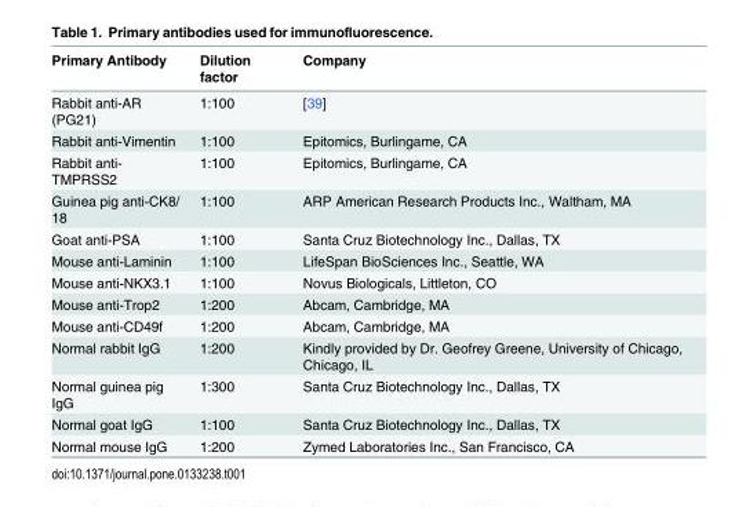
<table><thead><tr><td>Primary Antibody</td><td>Dilution factor</td><td>Company</td></tr></thead><tbody><tr><td>Rabbit anti-AR (PG21)</td><td>1:100</td><td>[39]</td></tr><tr><td>Rabbit anti-Vimentin</td><td>1:100</td><td>Epitomics, Burlingame, CA</td></tr><tr><td>Rabbit anti- TMPRSS2</td><td>1:100</td><td>Epitomics, Burlingame, CA</td></tr><tr><td>Guinea pig anti-CK8/ 18</td><td>1:100</td><td>ARP American Research Products Inc., Waltham, MA</td></tr><tr><td>Goat anti-PSA</td><td>1:100</td><td>Santa Cruz Biotechnology Inc., Dallas, TX</td></tr><tr><td>Mouse anti-Laminin</td><td>1:100</td><td>LifeSpan BioSciences Inc., Seattle, WA</td></tr><tr><td>Mouse anti-NKX3.1</td><td>1:100</td><td>Novus Biologicals, Littleton, CO</td></tr><tr><td>Mouse anti-Trop2</td><td>1:200</td><td>Abcam, Cambridge, MA</td></tr><tr><td>Mouse anti-CD49f</td><td>1:200</td><td>Abcam, Cambridge, MA</td></tr><tr><td>Normal rabbit IgG</td><td>1:200</td><td>Kindly provided by Dr. Geofrey Greene, University of Chicago, Chicago, IL</td></tr><tr><td>Normal guinea pig IgG</td><td>1:300</td><td>Santa Cruz Biotechnology Inc., Dallas, TX</td></tr><tr><td>Normal goat IgG</td><td>1:100</td><td>Santa Cruz Biotechnology Inc., Dallas, TX</td></tr><tr><td>Normal mouse IgG</td><td>1:200</td><td>Zymed Laboratories Inc., San Francisco, CA</td></tr></tbody></table>